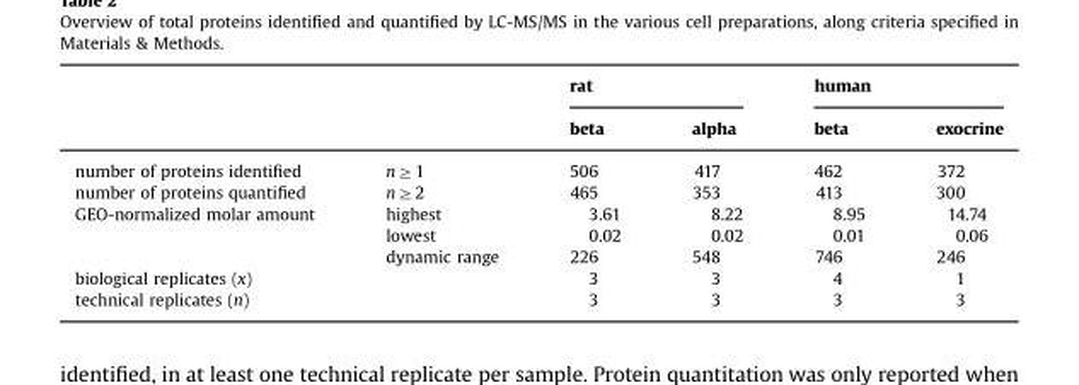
<table><thead><tr><td rowspan="2"></td><td rowspan="2"></td><td colspan="2">rat</td><td colspan="2">human</td></tr><tr><td>beta</td><td>alpha</td><td>beta</td><td>exocrine</td></tr></thead><tbody><tr><td>number of proteins identified</td><td>n≥1</td><td>506</td><td>417</td><td>462</td><td>372</td></tr><tr><td>number of proteins quantified</td><td>n≥2</td><td>465</td><td>353</td><td>413</td><td>300</td></tr><tr><td rowspan="3">GEO-normalized molar amount</td><td>highest</td><td>3.61</td><td>8.22</td><td>8.95</td><td>14.74</td></tr><tr><td>lowest</td><td>0.02</td><td>0.02</td><td>0.01</td><td>0.06</td></tr><tr><td>dynamic range</td><td>226</td><td>548</td><td>746</td><td>246</td></tr><tr><td>biological replicates (x)</td><td></td><td>3</td><td>3</td><td>4</td><td>1</td></tr><tr><td>technical replicates (n)</td><td></td><td>3</td><td>3</td><td>3</td><td>3</td></tr></tbody></table>